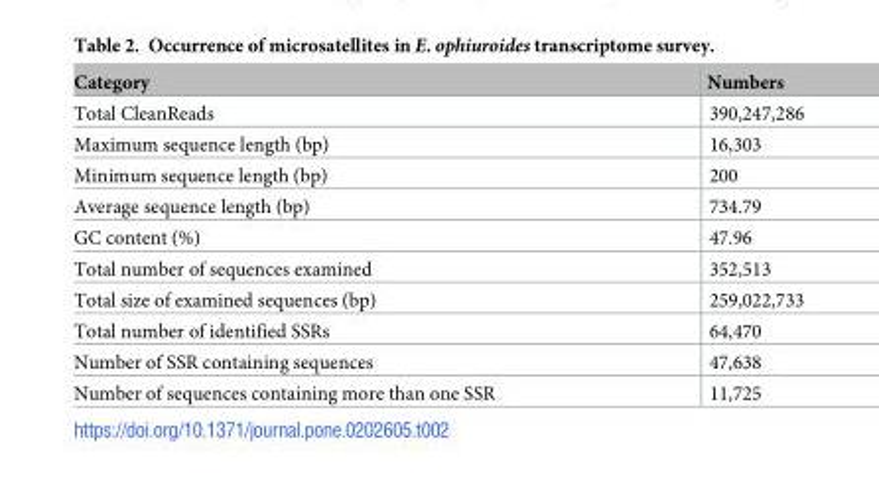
<table><thead><tr><td>Category</td><td>Numbers</td></tr></thead><tbody><tr><td>Total CleanReads</td><td>390,247,286</td></tr><tr><td>Maximum sequence length (bp)</td><td>16,303</td></tr><tr><td>Minimum sequence length (bp)</td><td>200</td></tr><tr><td>Average sequence length (bp)</td><td>734.79</td></tr><tr><td>GC content (%)</td><td>47.96</td></tr><tr><td>Total number of sequences examined</td><td>352,513</td></tr><tr><td>Total size of examined sequences (bp)</td><td>259,022,733</td></tr><tr><td>Total number of identified SSRs</td><td>64,470</td></tr><tr><td>Number of SSR containing sequences</td><td>47,638</td></tr><tr><td>Number of sequences containing more than one SSR</td><td>11,725</td></tr></tbody></table>